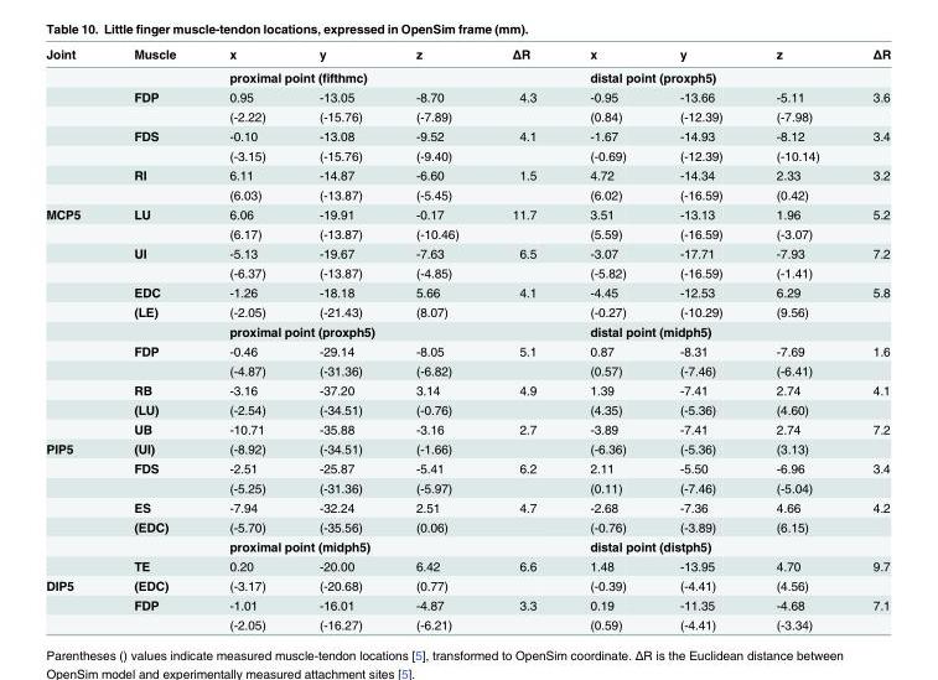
<table><thead><tr><td>Joint</td><td>Muscle</td><td>x</td><td>y</td><td>z</td><td>ΔR</td><td>x</td><td>y</td><td>z</td><td>ΔR</td></tr></thead><tbody><tr><td></td><td></td><td colspan="4">proximal point (fifthmc)</td><td colspan="4">distal point (proxph5)</td></tr><tr><td></td><td>FDP</td><td>0.95</td><td>-13.05</td><td>-8.70</td><td>4.3</td><td>-0.95</td><td>-13.66</td><td>-5.11</td><td>3.6</td></tr><tr><td></td><td></td><td>(-2.22)</td><td>(-15.76)</td><td>(-7.89)</td><td></td><td>(0.84)</td><td>(-12.39)</td><td>(-7.98)</td><td></td></tr><tr><td></td><td>FDS</td><td>-0.10</td><td>-13.08</td><td>-9.52</td><td>4.1</td><td>-1.67</td><td>-14.93</td><td>-8.12</td><td>3.4</td></tr><tr><td></td><td></td><td>(-3.15)</td><td>(-15.76)</td><td>(-9.40)</td><td></td><td>(-0.69)</td><td>(-12.39)</td><td>(-10.14)</td><td></td></tr><tr><td></td><td>RI</td><td>6.11</td><td>-14.87</td><td>-6.60</td><td>1.5</td><td>4.72</td><td>-14.34</td><td>2.33</td><td>3.2</td></tr><tr><td></td><td></td><td>(6.03)</td><td>(-13.87)</td><td>(-5.45)</td><td></td><td>(6.02)</td><td>(-16.59)</td><td>(0.42)</td><td></td></tr><tr><td rowspan="12">MCP5</td><td>LU</td><td>6.06</td><td>-19.91</td><td>-0.17</td><td>11.7</td><td>3.51</td><td>-13.13</td><td>1.96</td><td>5.2</td></tr><tr><td></td><td>(6.17)</td><td>(-13.87)</td><td>(-10.46)</td><td></td><td>(5.59)</td><td>(-16.59)</td><td>(-3.07)</td><td></td></tr><tr><td>UI</td><td>-5.13</td><td>-19.67</td><td>-7.63</td><td>6.5</td><td>-3.07</td><td>-17.71</td><td>-7.93</td><td>7.2</td></tr><tr><td></td><td>(-6.37)</td><td>(-13.87)</td><td>(-4.85)</td><td></td><td>(-5.82)</td><td>(-16.59)</td><td>(-1.41)</td><td></td></tr><tr><td>EDC</td><td>-1.26</td><td>-18.18</td><td>5.66</td><td>4.1</td><td>-4.45</td><td>-12.53</td><td>6.29</td><td>5.8</td></tr><tr><td>(LE)</td><td>(-2.05)</td><td>(-21.43)</td><td>(8.07)</td><td></td><td>(-0.27)</td><td>(-10.29)</td><td>(9.56)</td><td></td></tr><tr><td></td><td colspan="4">proximal point (proxph5)</td><td colspan="4">distal point (midph5)</td></tr><tr><td>FDP</td><td>-0.46</td><td>-29.14</td><td>-8.05</td><td>5.1</td><td>0.87</td><td>-8.31</td><td>-7.69</td><td>1.6</td></tr><tr><td></td><td>(-4.87)</td><td>(-31.36)</td><td>(-6.82)</td><td></td><td>(0.57)</td><td>(-7.46)</td><td>(-6.41)</td><td></td></tr><tr><td>RB</td><td>-3.16</td><td>-37.20</td><td>3.14</td><td>4.9</td><td>1.39</td><td>-7.41</td><td>2.74</td><td>4.1</td></tr><tr><td>(LU)</td><td>(-2.54)</td><td>(-34.51)</td><td>(-0.76)</td><td></td><td>(4.35)</td><td>(-5.36)</td><td>(4.60)</td><td></td></tr><tr><td>UB</td><td>-10.71</td><td>-35.88</td><td>-3.16</td><td>2.7</td><td>-3.89</td><td>-7.41</td><td>2.74</td><td>7.2</td></tr><tr><td rowspan="7">PIP5</td><td>(UI)</td><td>(-8.92)</td><td>(-34.51)</td><td>(-1.66)</td><td></td><td>(-6.36)</td><td>(-5.36)</td><td>(3.13)</td><td></td></tr><tr><td>FDS</td><td>-2.51</td><td>-25.87</td><td>-5.41</td><td>6.2</td><td>2.11</td><td>-5.50</td><td>-6.96</td><td>3.4</td></tr><tr><td></td><td>(-5.25)</td><td>(-31.36)</td><td>(-5.97)</td><td></td><td>(0.11)</td><td>(-7.46)</td><td>(-5.04)</td><td></td></tr><tr><td>ES</td><td>-7.94</td><td>-32.24</td><td>2.51</td><td>4.7</td><td>-2.68</td><td>-7.36</td><td>4.66</td><td>4.2</td></tr><tr><td>(EDC)</td><td>(-5.70)</td><td>(-35.56)</td><td>(0.06)</td><td></td><td>(-0.76)</td><td>(-3.89)</td><td>(6.15)</td><td></td></tr><tr><td></td><td colspan="4">proximal point (midph5)</td><td colspan="4">distal point (distph5)</td></tr><tr><td>TE</td><td>0.20</td><td>-20.00</td><td>6.42</td><td>6.6</td><td>1.48</td><td>-13.95</td><td>4.70</td><td>9.7</td></tr><tr><td rowspan="3">DIP5</td><td>(EDC)</td><td>(-3.17)</td><td>(-20.68)</td><td>(0.77)</td><td></td><td>(-0.39)</td><td>(-4.41)</td><td>(4.56)</td><td></td></tr><tr><td>FDP</td><td>-1.01</td><td>-16.01</td><td>-4.87</td><td>3.3</td><td>0.19</td><td>-11.35</td><td>-4.68</td><td>7.1</td></tr><tr><td></td><td>(-2.05)</td><td>(-16.27)</td><td>(-6.21)</td><td></td><td>(0.59)</td><td>(-4.41)</td><td>(-3.34)</td><td></td></tr></tbody></table>